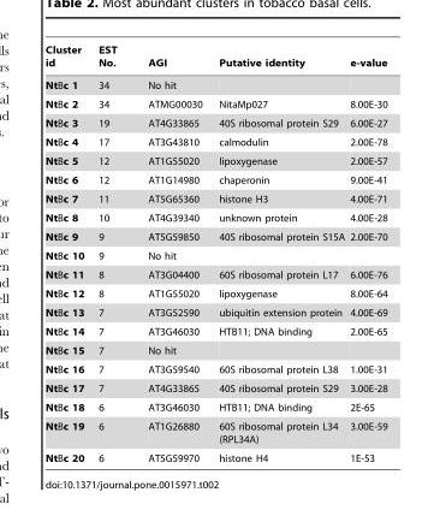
<table><thead><tr><td>Cluster id</td><td>EST No.</td><td>AGI</td><td>Putative identity</td><td>e-value</td></tr></thead><tbody><tr><td>NtBc 1</td><td>34</td><td>No hit</td><td></td><td></td></tr><tr><td>NtBc 2</td><td>34</td><td>ATMG00030</td><td>NitaMp027</td><td>8.00E-30</td></tr><tr><td>NtBc 3</td><td>19</td><td>AT4G33865</td><td>40S ribosomal protein S29</td><td>6.00E-27</td></tr><tr><td>NtBc 4</td><td>17</td><td>AT3G43810</td><td>calmodulin</td><td>2.00E-78</td></tr><tr><td>NtBc 5</td><td>12</td><td>AT1G55020</td><td>lipoxygenase</td><td>2.00E-57</td></tr><tr><td>NtBc 6</td><td>12</td><td>AT1G14980</td><td>chaperonin</td><td>9.00E-41</td></tr><tr><td>NtBc 7</td><td>11</td><td>AT5G65360</td><td>histone H3</td><td>4.00E-71</td></tr><tr><td>NtBc 8</td><td>10</td><td>AT4G39340</td><td>unknown protein</td><td>4.00E-28</td></tr><tr><td>NtBc 9</td><td>9</td><td>AT5G59850</td><td>40S ribosomal protein S15A</td><td>2.00E-70</td></tr><tr><td>NtBc 10</td><td>9</td><td>No hit</td><td></td><td></td></tr><tr><td>NtBc 11</td><td>8</td><td>AT3G04400</td><td>60S ribosomal protein L17</td><td>6.00E-76</td></tr><tr><td>NtBc 12</td><td>8</td><td>AT1G55020</td><td>lipoxygenase</td><td>8.00E-64</td></tr><tr><td>NtBc 13</td><td>7</td><td>AT3G52590</td><td>ubiquitin extension protein</td><td>4.00E-69</td></tr><tr><td>NtBc 14</td><td>7</td><td>AT3G46030</td><td>HTB11; DNA binding</td><td>2.00E-65</td></tr><tr><td>NtBc 15</td><td>7</td><td>No hit</td><td></td><td></td></tr><tr><td>NtBc 16</td><td>7</td><td>AT3G59540</td><td>60S ribosomal protein L38</td><td>1.00E-31</td></tr><tr><td>NtBc 17</td><td>7</td><td>AT4G33865</td><td>40S ribosomal protein S29</td><td>3.00E-28</td></tr><tr><td>NtBc 18</td><td>6</td><td>AT3G46030</td><td>HTB11; DNA binding</td><td>2E-65</td></tr><tr><td>NtBc 19</td><td>6</td><td>AT1G26880</td><td>60S ribosomal protein L34 (RPL34A)</td><td>3.00E-59</td></tr><tr><td>NtBc 20</td><td>6</td><td>AT5G59970</td><td>histone H4</td><td>1E-53</td></tr></tbody></table>